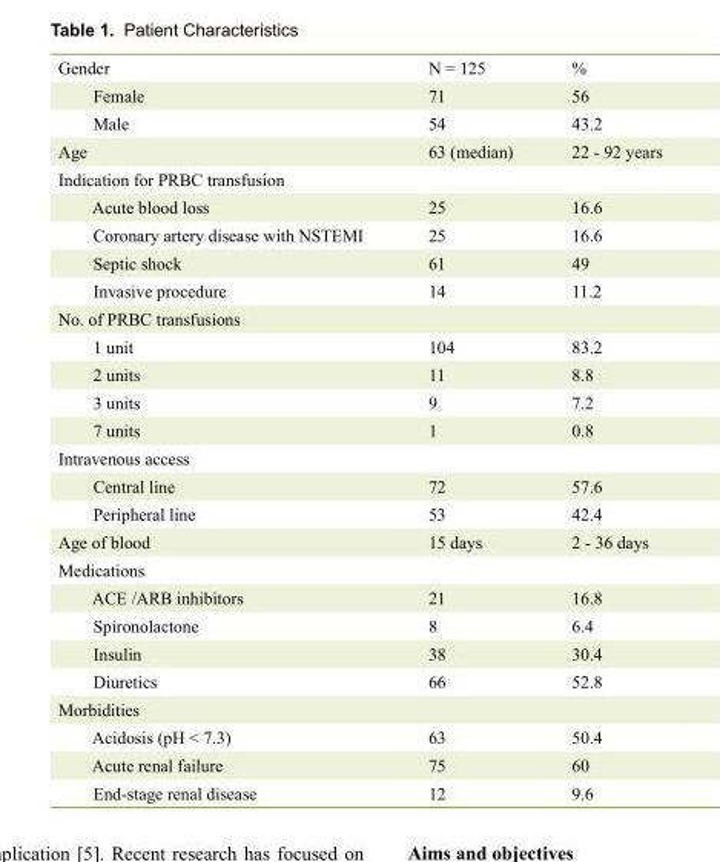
<table><tbody><tr><td>Gender</td><td>N = 125</td><td>%</td></tr><tr><td>Female</td><td>71</td><td>56</td></tr><tr><td>Male</td><td>54</td><td>43.2</td></tr><tr><td>Age</td><td>63 (median)</td><td>22 - 92 years</td></tr><tr><td colspan="3">Indication for PRBC transfusion</td></tr><tr><td>Acute blood loss</td><td>25</td><td>16.6</td></tr><tr><td>Coronary artery disease with NSTEMI</td><td>25</td><td>16.6</td></tr><tr><td>Septic shock</td><td>61</td><td>49</td></tr><tr><td>Invasive procedure</td><td>14</td><td>11.2</td></tr><tr><td colspan="3">No. of PRBC transfusions</td></tr><tr><td>1 unit</td><td>104</td><td>83.2</td></tr><tr><td>2 units</td><td>11</td><td>8.8</td></tr><tr><td>3 units</td><td>9</td><td>7.2</td></tr><tr><td>7 units</td><td>1</td><td>0.8</td></tr><tr><td colspan="3">Intravenous access</td></tr><tr><td>Central line</td><td>72</td><td>57.6</td></tr><tr><td>Peripheral line</td><td>53</td><td>42.4</td></tr><tr><td>Age of blood</td><td>15 days</td><td>2 - 36 days</td></tr><tr><td colspan="3">Medications</td></tr><tr><td>ACE /ARB inhibitors</td><td>21</td><td>16.8</td></tr><tr><td>Spironolactone</td><td>8</td><td>6.4</td></tr><tr><td>Insulin</td><td>38</td><td>30.4</td></tr><tr><td>Diuretics</td><td>66</td><td>52.8</td></tr><tr><td colspan="3">Morbidities</td></tr><tr><td>Acidosis (pH &lt; 7.3)</td><td>63</td><td>50.4</td></tr><tr><td>Acute renal failure</td><td>75</td><td>60</td></tr><tr><td>End-stage renal disease</td><td>12</td><td>9.6</td></tr></tbody></table>